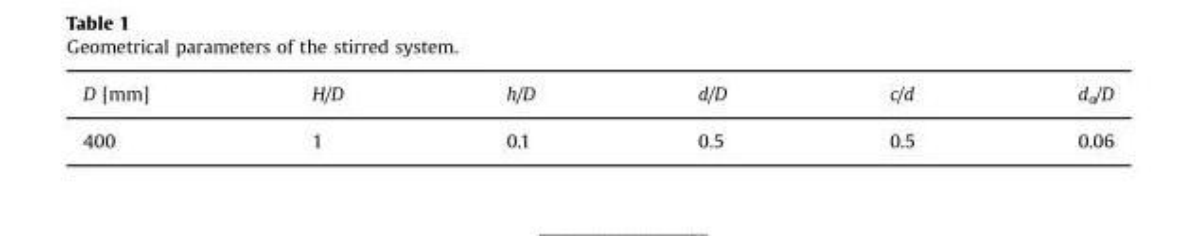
<table><thead><tr><td>D [mm]</td><td>H/D</td><td>h/D</td><td>d/D</td><td>c/d</td><td>d<sub>a</sub>/D</td></tr></thead><tbody><tr><td>400</td><td>1</td><td>0.1</td><td>0.5</td><td>0.5</td><td>0.06</td></tr></tbody></table>